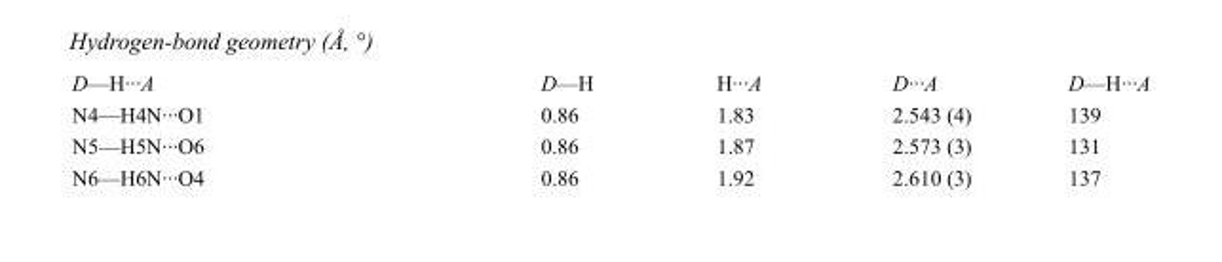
<table><tbody><tr><td>D—H···A</td><td>D—H</td><td>H···A</td><td>D···A</td><td>D—H···A</td></tr><tr><td>N4—H4N···O1</td><td>0.86</td><td>1.83</td><td>2.543 (4)</td><td>139</td></tr><tr><td>N5—H5N···O6</td><td>0.86</td><td>1.87</td><td>2.573 (3)</td><td>131</td></tr><tr><td>N6—H6N···O4</td><td>0.86</td><td>1.92</td><td>2.610 (3)</td><td>137</td></tr></tbody></table>